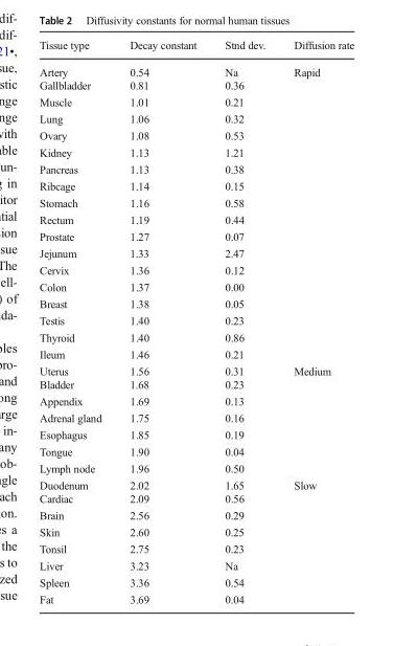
<table><thead><tr><td>Tissue type</td><td>Decay constant</td><td>Stnd dev.</td><td>Diffusion rate</td></tr></thead><tbody><tr><td>Artery</td><td>0.54</td><td>Na</td><td rowspan="18">Rapid</td></tr><tr><td>Gallbladder</td><td>0.81</td><td>0.36</td></tr><tr><td>Muscle</td><td>1.01</td><td>0.21</td></tr><tr><td>Lung</td><td>1.06</td><td>0.32</td></tr><tr><td>Ovary</td><td>1.08</td><td>0.53</td></tr><tr><td>Kidney</td><td>1.13</td><td>1.21</td></tr><tr><td>Pancreas</td><td>1.13</td><td>0.38</td></tr><tr><td>Ribcage</td><td>1.14</td><td>0.15</td></tr><tr><td>Stomach</td><td>1.16</td><td>0.58</td></tr><tr><td>Rectum</td><td>1.19</td><td>0.44</td></tr><tr><td>Prostate</td><td>1.27</td><td>0.07</td></tr><tr><td>Jejunum</td><td>1.33</td><td>2.47</td></tr><tr><td>Cervix</td><td>1.36</td><td>0.12</td></tr><tr><td>Colon</td><td>1.37</td><td>0.00</td></tr><tr><td>Breast</td><td>1.38</td><td>0.05</td></tr><tr><td>Testis</td><td>1.40</td><td>0.23</td></tr><tr><td>Thyroid</td><td>1.40</td><td>0.86</td></tr><tr><td>Ileum</td><td>1.46</td><td>0.21</td></tr><tr><td>Uterus</td><td>1.56</td><td>0.31</td><td rowspan="7">Medium</td></tr><tr><td>Bladder</td><td>1.68</td><td>0.23</td></tr><tr><td>Appendix</td><td>1.69</td><td>0.13</td></tr><tr><td>Adrenal gland</td><td>1.75</td><td>0.16</td></tr><tr><td>Esophagus</td><td>1.85</td><td>0.19</td></tr><tr><td>Tongue</td><td>1.90</td><td>0.04</td></tr><tr><td>Lymph node</td><td>1.96</td><td>0.50</td></tr><tr><td>Duodenum</td><td>2.02</td><td>1.65</td><td rowspan="8">Slow</td></tr><tr><td>Cardiac</td><td>2.09</td><td>0.56</td></tr><tr><td>Brain</td><td>2.56</td><td>0.29</td></tr><tr><td>Skin</td><td>2.60</td><td>0.25</td></tr><tr><td>Tonsil</td><td>2.75</td><td>0.23</td></tr><tr><td>Liver</td><td>3.23</td><td>Na</td></tr><tr><td>Spleen</td><td>3.36</td><td>0.54</td></tr><tr><td>Fat</td><td>3.69</td><td>0.04</td></tr></tbody></table>